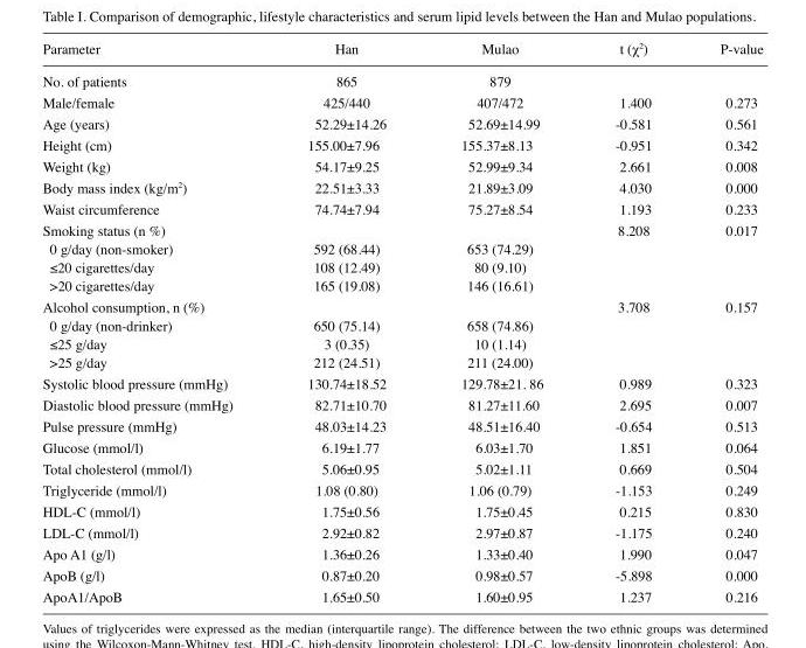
<table><thead><tr><td>Parameter</td><td>Han</td><td>Mulao</td><td>t (χ<sup>2</sup>)</td><td>P-value</td></tr></thead><tbody><tr><td>No. of patients</td><td>865</td><td>879</td><td></td><td></td></tr><tr><td>Male/female</td><td>425/440</td><td>407/472</td><td>1.400</td><td>0.273</td></tr><tr><td>Age (years)</td><td>52.29±14.26</td><td>52.69±14.99</td><td>-0.581</td><td>0.561</td></tr><tr><td>Height (cm)</td><td>155.00±7.96</td><td>155.37±8.13</td><td>-0.951</td><td>0.342</td></tr><tr><td>Weight (kg)</td><td>54.17±9.25</td><td>52.99±9.34</td><td>2.661</td><td>0.008</td></tr><tr><td>Body mass index (kg/m<sup>2</sup>)</td><td>22.51±3.33</td><td>21.89±3.09</td><td>4.030</td><td>0.000</td></tr><tr><td>Waist circumference</td><td>74.74±7.94</td><td>75.27±8.54</td><td>1.193</td><td>0.233</td></tr><tr><td>Smoking status (n %)</td><td></td><td></td><td>8.208</td><td>0.017</td></tr><tr><td>0 g/day (non-smoker)</td><td>592 (68.44)</td><td>653 (74.29)</td><td></td><td></td></tr><tr><td>≤20 cigarettes/day</td><td>108 (12.49)</td><td>80 (9.10)</td><td></td><td></td></tr><tr><td>&gt;20 cigarettes/day</td><td>165 (19.08)</td><td>146 (16.61)</td><td></td><td></td></tr><tr><td>Alcohol consumption, n (%)</td><td></td><td></td><td>3.708</td><td>0.157</td></tr><tr><td>0 g/day (non-drinker)</td><td>650 (75.14)</td><td>658 (74.86)</td><td></td><td></td></tr><tr><td>≤25 g/day</td><td>3 (0.35)</td><td>10 (1.14)</td><td></td><td></td></tr><tr><td>&gt;25 g/day</td><td>212 (24.51)</td><td>211 (24.00)</td><td></td><td></td></tr><tr><td>Systolic blood pressure (mmHg)</td><td>130.74±18.52</td><td>129.78±21. 86</td><td>0.989</td><td>0.323</td></tr><tr><td>Diastolic blood pressure (mmHg)</td><td>82.71±10.70</td><td>81.27±11.60</td><td>2.695</td><td>0.007</td></tr><tr><td>Pulse pressure (mmHg)</td><td>48.03±14.23</td><td>48.51±16.40</td><td>-0.654</td><td>0.513</td></tr><tr><td>Glucose (mmol/l)</td><td>6.19±1.77</td><td>6.03±1.70</td><td>1.851</td><td>0.064</td></tr><tr><td>Total cholesterol (mmol/l)</td><td>5.06±0.95</td><td>5.02±1.11</td><td>0.669</td><td>0.504</td></tr><tr><td>Triglyceride (mmol/l)</td><td>1.08 (0.80)</td><td>1.06 (0.79)</td><td>-1.153</td><td>0.249</td></tr><tr><td>HDL-C (mmol/l)</td><td>1.75±0.56</td><td>1.75±0.45</td><td>0.215</td><td>0.830</td></tr><tr><td>LDL-C (mmol/l)</td><td>2.92±0.82</td><td>2.97±0.87</td><td>-1.175</td><td>0.240</td></tr><tr><td>Apo A1 (g/l)</td><td>1.36±0.26</td><td>1.33±0.40</td><td>1.990</td><td>0.047</td></tr><tr><td>ApoB (g/l)</td><td>0.87±0.20</td><td>0.98±0.57</td><td>-5.898</td><td>0.000</td></tr><tr><td>ApoA1/ApoB</td><td>1.65±0.50</td><td>1.60±0.95</td><td>1.237</td><td>0.216</td></tr></tbody></table>